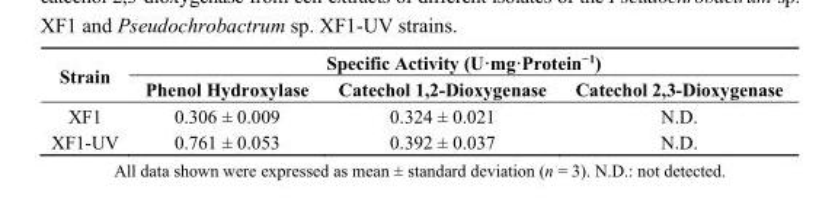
<table><thead><tr><td rowspan="2">Strain</td><td colspan="3">Specific Activity (U·mg·Protein<sup>−1</sup>)</td></tr><tr><td>Phenol Hydroxylase</td><td>Catechol 1,2-Dioxygenase</td><td>Catechol 2,3-Dioxygenase</td></tr></thead><tbody><tr><td>XF1</td><td>0.306 ± 0.009</td><td>0.324 ± 0.021</td><td>N.D.</td></tr><tr><td>XF1-UV</td><td>0.761 ± 0.053</td><td>0.392 ± 0.037</td><td>N.D.</td></tr></tbody></table>